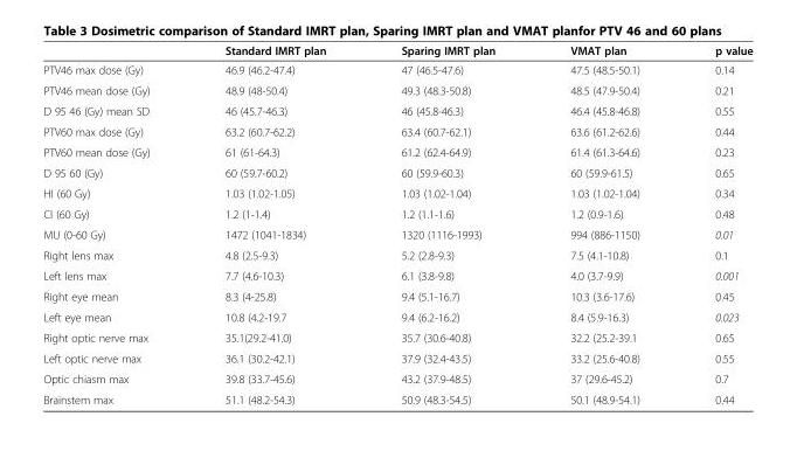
<table><thead><tr><td></td><td>Standard IMRT plan</td><td>Sparing IMRT plan</td><td>VMAT plan</td><td>p value</td></tr></thead><tbody><tr><td>PTV46 max dose (Gy)</td><td>46.9 (46.2-47.4)</td><td>47 (46.5-47.6)</td><td>47.5 (48.5-50.1)</td><td>0.14</td></tr><tr><td>PTV46 mean dose (Gy)</td><td>48.9 (48-50.4)</td><td>49.3 (48.3-50.8)</td><td>48.5 (47.9-50.4)</td><td>0.21</td></tr><tr><td>D 95 46 (Gy) mean SD</td><td>46 (45.7-46.3)</td><td>46 (45.8-46.3)</td><td>46.4 (45.8-46.8)</td><td>0.55</td></tr><tr><td>PTV60 max dose (Gy)</td><td>63.2 (60.7-62.2)</td><td>63.4 (60.7-62.1)</td><td>63.6 (61.2-62.6)</td><td>0.44</td></tr><tr><td>PTV60 mean dose (Gy)</td><td>61 (61-64.3)</td><td>61.2 (62.4-64.9)</td><td>61.4 (61.3-64.6)</td><td>0.23</td></tr><tr><td>D 95 60 (Gy)</td><td>60 (59.7-60.2)</td><td>60 (59.9-60.3)</td><td>60 (59.9-61.5)</td><td>0.65</td></tr><tr><td>HI (60 Gy)</td><td>1.03 (1.02-1.05)</td><td>1.03 (1.02-1.04)</td><td>1.03 (1.02-1.04)</td><td>0.34</td></tr><tr><td>CI (60 Gy)</td><td>1.2 (1-1.4)</td><td>1.2 (1.1-1.6)</td><td>1.2 (0.9-1.6)</td><td>0.48</td></tr><tr><td>MU (0-60 Gy)</td><td>1472 (1041-1834)</td><td>1320 (1116-1993)</td><td>994 (886-1150)</td><td>0.01</td></tr><tr><td>Right lens max</td><td>4.8 (2.5-9.3)</td><td>5.2 (2.8-9.3)</td><td>7.5 (4.1-10.8)</td><td>0.1</td></tr><tr><td>Left lens max</td><td>7.7 (4.6-10.3)</td><td>6.1 (3.8-9.8)</td><td>4.0 (3.7-9.9)</td><td>0.001</td></tr><tr><td>Right eye mean</td><td>8.3 (4-25.8)</td><td>9.4 (5.1-16.7)</td><td>10.3 (3.6-17.6)</td><td>0.45</td></tr><tr><td>Left eye mean</td><td>10.8 (4.2-19.7</td><td>9.4 (6.2-16.2)</td><td>8.4 (5.9-16.3)</td><td>0.023</td></tr><tr><td>Right optic nerve max</td><td>35.1(29.2-41.0)</td><td>35.7 (30.6-40.8)</td><td>32.2 (25.2-39.1</td><td>0.65</td></tr><tr><td>Left optic nerve max</td><td>36.1 (30.2-42.1)</td><td>37.9 (32.4-43.5)</td><td>33.2 (25.6-40.8)</td><td>0.55</td></tr><tr><td>Optic chiasm max</td><td>39.8 (33.7-45.6)</td><td>43.2 (37.9-48.5)</td><td>37 (29.6-45.2)</td><td>0.7</td></tr><tr><td>Brainstem max</td><td>51.1 (48.2-54.3)</td><td>50.9 (48.3-54.5)</td><td>50.1 (48.9-54.1)</td><td>0.44</td></tr></tbody></table>